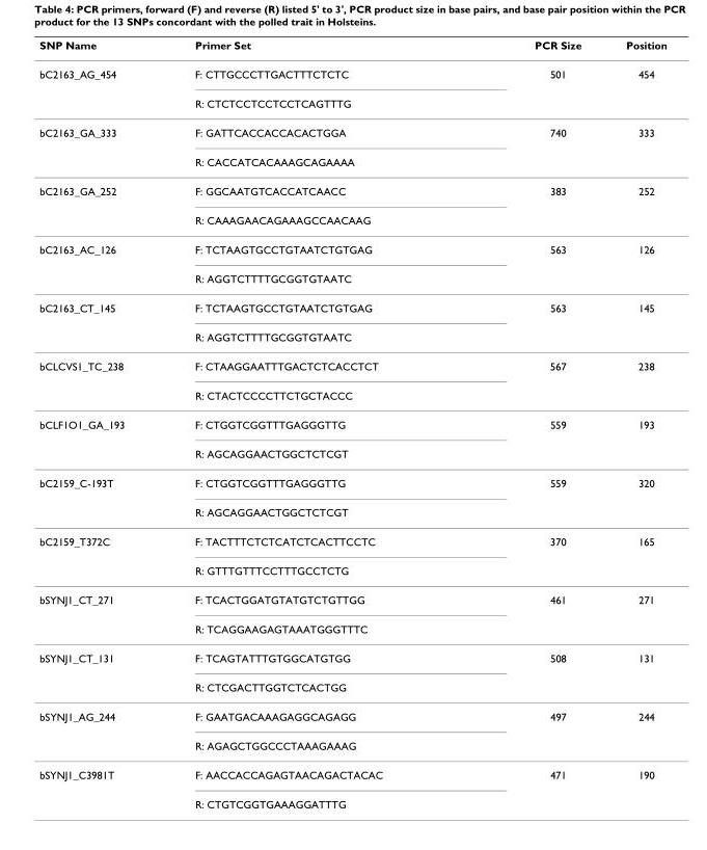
<table><thead><tr><td>SNP Name</td><td>Primer Set</td><td>PCR Size</td><td>Position</td></tr></thead><tbody><tr><td rowspan="2">bC2163_AG_454</td><td>F: CTTGCCCTTGACTTTCTCTC</td><td>501</td><td>454</td></tr><tr><td>R: CTCTCCTCCTCCTCAGTTTG</td><td></td><td></td></tr><tr><td rowspan="2">bC2163_GA_333</td><td>F: GATTCACCACCACACTGGA</td><td>740</td><td>333</td></tr><tr><td>R: CACCATCACAAAGCAGAAAA</td><td></td><td></td></tr><tr><td rowspan="2">bC2163_GA_252</td><td>F: GGCAATGTCACCATCAACC</td><td>383</td><td>252</td></tr><tr><td>R: CAAAGAACAGAAAGCCAACAAG</td><td></td><td></td></tr><tr><td rowspan="2">bC2163_AC_126</td><td>F: TCTAAGTGCCTGTAATCTGTGAG</td><td>563</td><td>126</td></tr><tr><td>R: AGGTCTTTTGCGGTGTAATC</td><td></td><td></td></tr><tr><td rowspan="2">bC2163_CT_145</td><td>F: TCTAAGTGCCTGTAATCTGTGAG</td><td>563</td><td>145</td></tr><tr><td>R: AGGTCTTTTGCGGTGTAATC</td><td></td><td></td></tr><tr><td rowspan="2">bCLCVS1_TC_238</td><td>F: CTAAGGAATTTGACTCTCACCTCT</td><td>567</td><td>238</td></tr><tr><td>R: CTACTCCCCTTCTGCTACCC</td><td></td><td></td></tr><tr><td rowspan="2">bCLF1O1_GA_193</td><td>F: CTGGTCGGTTTGAGGGTTG</td><td>559</td><td>193</td></tr><tr><td>R: AGCAGGAACTGGCTCTCGT</td><td></td><td></td></tr><tr><td rowspan="2">bC2159_C-193T</td><td>F: CTGGTCGGTTTGAGGGTTG</td><td>559</td><td>320</td></tr><tr><td>R: AGCAGGAACTGGCTCTCGT</td><td></td><td></td></tr><tr><td rowspan="2">bC2159_T372C</td><td>F: TACTTTCTCTCATCTCACTTCCTC</td><td>370</td><td>165</td></tr><tr><td>R: GTTTGTTTCCTTTGCCTCTG</td><td></td><td></td></tr><tr><td rowspan="2">bSYNJ1_CT_271</td><td>F: TCACTGGATGTATGTCTGTTGG</td><td>461</td><td>271</td></tr><tr><td>R: TCAGGAAGAGTAAATGGGTTTC</td><td></td><td></td></tr><tr><td rowspan="2">bSYNJ1_CT_131</td><td>F: TCAGTATTTGTGGCATGTGG</td><td>508</td><td>131</td></tr><tr><td>R: CTCGACTTGGTCTCACTGG</td><td></td><td></td></tr><tr><td rowspan="2">bSYNJ1_AG_244</td><td>F: GAATGACAAAGAGGCAGAGG</td><td>497</td><td>244</td></tr><tr><td>R: AGAGCTGGCCCTAAAGAAAG</td><td></td><td></td></tr><tr><td rowspan="2">bSYNJ1_C3981T</td><td>F: AACCACCAGAGTAACAGACTACAC</td><td>471</td><td>190</td></tr><tr><td>R: CTGTCGGTGAAAGGATTTG</td><td></td><td></td></tr></tbody></table>